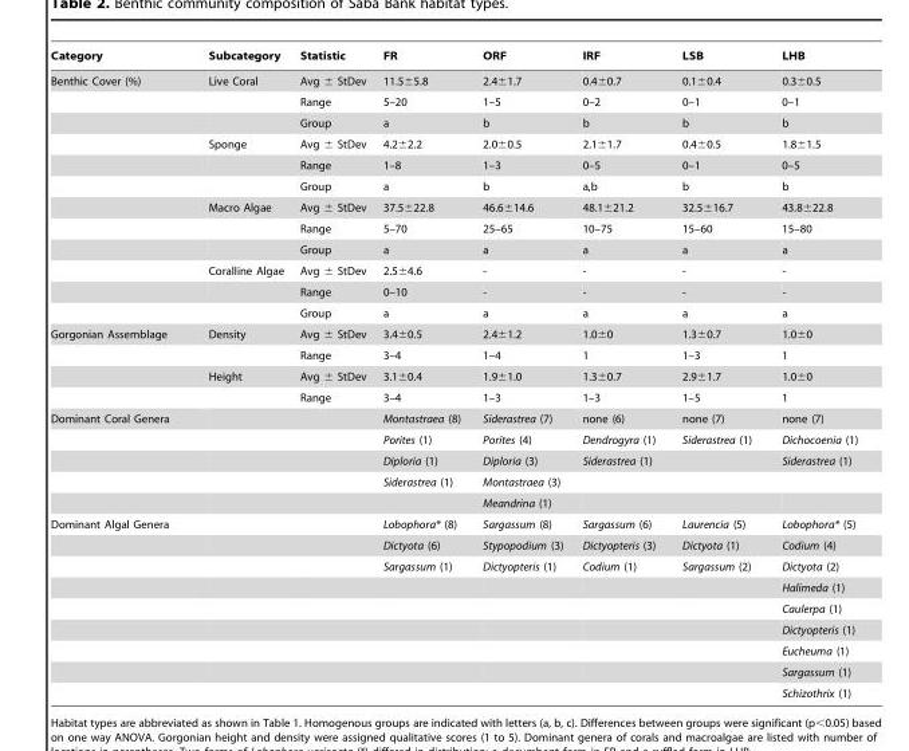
<table><thead><tr><td>Category</td><td>Subcategory</td><td>Statistic</td><td>FR</td><td>ORF</td><td>IRF</td><td>LSB</td><td>LHB</td></tr></thead><tbody><tr><td rowspan="12">Benthic Cover (%)</td><td>Live Coral</td><td>Avg ± StDev</td><td>11.5±5.8</td><td>2.4±1.7</td><td>0.4±0.7</td><td>0.1±0.4</td><td>0.3±0.5</td></tr><tr><td></td><td>Range</td><td>5–20</td><td>1–5</td><td>0–2</td><td>0–1</td><td>0–1</td></tr><tr><td></td><td>Group</td><td>a</td><td>b</td><td>b</td><td>b</td><td>b</td></tr><tr><td>Sponge</td><td>Avg ± StDev</td><td>4.2±2.2</td><td>2.0±0.5</td><td>2.1±1.7</td><td>0.4±0.5</td><td>1.8±1.5</td></tr><tr><td></td><td>Range</td><td>1–8</td><td>1–3</td><td>0–5</td><td>0–1</td><td>0–5</td></tr><tr><td></td><td>Group</td><td>a</td><td>b</td><td>a,b</td><td>b</td><td>b</td></tr><tr><td>Macro Algae</td><td>Avg ± StDev</td><td>37.5±22.8</td><td>46.6±14.6</td><td>48.1±21.2</td><td>32.5±16.7</td><td>43.8±22.8</td></tr><tr><td></td><td>Range</td><td>5–70</td><td>25–65</td><td>10–75</td><td>15–60</td><td>15–80</td></tr><tr><td></td><td>Group</td><td>a</td><td>a</td><td>a</td><td>a</td><td>a</td></tr><tr><td>Coralline Algae</td><td>Avg ± StDev</td><td>2.5±4.6</td><td>-</td><td>-</td><td>-</td><td>-</td></tr><tr><td></td><td>Range</td><td>0–10</td><td>-</td><td>-</td><td>-</td><td>-</td></tr><tr><td></td><td>Group</td><td>a</td><td>a</td><td>a</td><td>a</td><td>a</td></tr><tr><td rowspan="4">Gorgonian Assemblage</td><td>Density</td><td>Avg ± StDev</td><td>3.4±0.5</td><td>2.4±1.2</td><td>1.0±0</td><td>1.3±0.7</td><td>1.0±0</td></tr><tr><td></td><td>Range</td><td>3–4</td><td>1–4</td><td>1</td><td>1–3</td><td>1</td></tr><tr><td>Height</td><td>Avg ± StDev</td><td>3.1±0.4</td><td>1.9±1.0</td><td>1.3±0.7</td><td>2.9±1.7</td><td>1.0±0</td></tr><tr><td></td><td>Range</td><td>3–4</td><td>1–3</td><td>1–3</td><td>1–5</td><td>1</td></tr><tr><td rowspan="5">Dominant Coral Genera</td><td></td><td></td><td>Montastraea (8)</td><td>Siderastrea (7)</td><td>none (6)</td><td>none (7)</td><td>none (7)</td></tr><tr><td></td><td></td><td>Porites (1)</td><td>Porites (4)</td><td>Dendrogyra (1)</td><td>Siderastrea (1)</td><td>Dichocoenia (1)</td></tr><tr><td></td><td></td><td>Diploria (1)</td><td>Diploria (3)</td><td>Siderastrea (1)</td><td></td><td>Siderastrea (1)</td></tr><tr><td></td><td></td><td>Siderastrea (1)</td><td>Montastraea (3)</td><td></td><td></td><td></td></tr><tr><td></td><td></td><td></td><td>Meandrina (1)</td><td></td><td></td><td></td></tr><tr><td rowspan="9">Dominant Algal Genera</td><td></td><td></td><td>Lobophora* (8)</td><td>Sargassum (8)</td><td>Sargassum (6)</td><td>Laurencia (5)</td><td>Lobophora* (5)</td></tr><tr><td></td><td></td><td>Dictyota (6)</td><td>Stypopodium (3)</td><td>Dictyopteris (3)</td><td>Dictyota (1)</td><td>Codium (4)</td></tr><tr><td></td><td></td><td>Sargassum (1)</td><td>Dictyopteris (1)</td><td>Codium (1)</td><td>Sargassum (2)</td><td>Dictyota (2)</td></tr><tr><td></td><td></td><td></td><td></td><td></td><td></td><td>Halimeda (1)</td></tr><tr><td></td><td></td><td></td><td></td><td></td><td></td><td>Caulerpa (1)</td></tr><tr><td></td><td></td><td></td><td></td><td></td><td></td><td>Dictyopteris (1)</td></tr><tr><td></td><td></td><td></td><td></td><td></td><td></td><td>Eucheuma (1)</td></tr><tr><td></td><td></td><td></td><td></td><td></td><td></td><td>Sargassum (1)</td></tr><tr><td></td><td></td><td></td><td></td><td></td><td></td><td>Schizothrix (1)</td></tr></tbody></table>